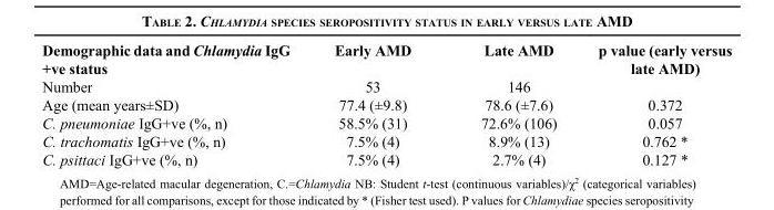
<table><thead><tr><td>Demographic data and Chlamydia IgG +ve status</td><td>Early AMD</td><td>Late AMD</td><td>p value (early versus late AMD)</td></tr></thead><tbody><tr><td>Number</td><td>53</td><td>146</td><td></td></tr><tr><td>Age (mean years±SD)</td><td>77.4 (±9.8)</td><td>78.6 (±7.6)</td><td>0.372</td></tr><tr><td>C. pneumoniae IgG+ve (%, n)</td><td>58.5% (31)</td><td>72.6% (106)</td><td>0.057</td></tr><tr><td>C. trachomatis IgG+ve (%, n)</td><td>7.5% (4)</td><td>8.9% (13)</td><td>0.762 *</td></tr><tr><td>C. psittaci IgG+ve (%, n)</td><td>7.5% (4)</td><td>2.7% (4)</td><td>0.127 *</td></tr></tbody></table>